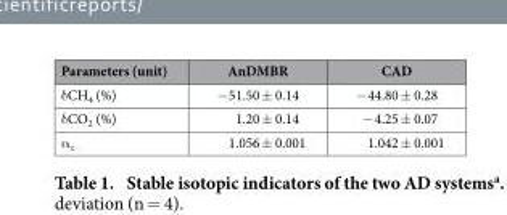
<table><thead><tr><td>Parameters (unit)</td><td>AnDMBR</td><td>CAD</td></tr></thead><tbody><tr><td>δ CH<sub>4</sub> (%)</td><td>− 51.50 ± 0.14</td><td>− 44.80 ± 0.28</td></tr><tr><td>δ CO<sub>2</sub> (%)</td><td>1.20 ± 0.14</td><td>− 4.25 ± 0.07</td></tr><tr><td>α <sub>c</sub></td><td>1.056 ± 0.001</td><td>1.042 ± 0.001</td></tr></tbody></table>